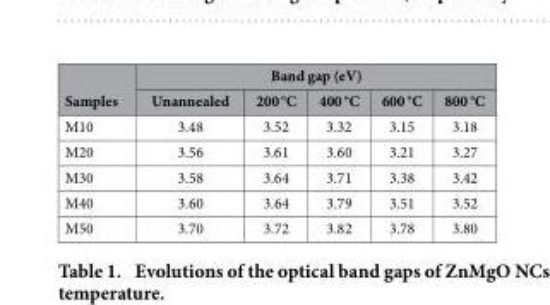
<table><thead><tr><td rowspan="2">Samples</td><td colspan="5">Band gap (eV)</td></tr><tr><td>Unannealed</td><td>200 °C</td><td>400 °C</td><td>600 °C</td><td>800 °C</td></tr></thead><tbody><tr><td>M10</td><td>3.48</td><td>3.52</td><td>3.32</td><td>3.15</td><td>3.18</td></tr><tr><td>M20</td><td>3.56</td><td>3.61</td><td>3.60</td><td>3.21</td><td>3.27</td></tr><tr><td>M30</td><td>3.58</td><td>3.64</td><td>3.71</td><td>3.38</td><td>3.42</td></tr><tr><td>M40</td><td>3.60</td><td>3.64</td><td>3.79</td><td>3.51</td><td>3.52</td></tr><tr><td>M50</td><td>3.70</td><td>3.72</td><td>3.82</td><td>3.78</td><td>3.80</td></tr></tbody></table>